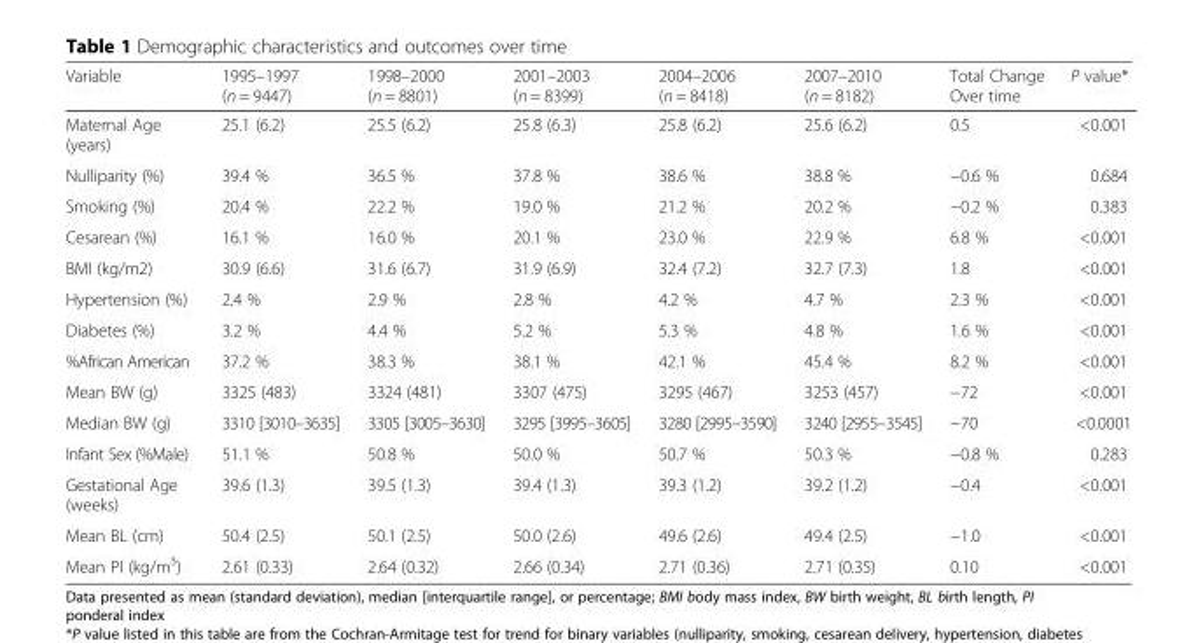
<table><thead><tr><td>Variable</td><td>1995–1997 (n = 9447)</td><td>1998–2000 (n = 8801)</td><td>2001–2003 (n = 8399)</td><td>2004–2006 (n = 8418)</td><td>2007–2010 (n = 8182)</td><td>Total Change Over time</td><td>P value*</td></tr></thead><tbody><tr><td>Maternal Age (years)</td><td>25.1 (6.2)</td><td>25.5 (6.2)</td><td>25.8 (6.3)</td><td>25.8 (6.2)</td><td>25.6 (6.2)</td><td>0.5</td><td>&lt;0.001</td></tr><tr><td>Nulliparity (%)</td><td>39.4 %</td><td>36.5 %</td><td>37.8 %</td><td>38.6 %</td><td>38.8 %</td><td>−0.6 %</td><td>0.684</td></tr><tr><td>Smoking (%)</td><td>20.4 %</td><td>22.2 %</td><td>19.0 %</td><td>21.2 %</td><td>20.2 %</td><td>−0.2 %</td><td>0.383</td></tr><tr><td>Cesarean (%)</td><td>16.1 %</td><td>16.0 %</td><td>20.1 %</td><td>23.0 %</td><td>22.9 %</td><td>6.8 %</td><td>&lt;0.001</td></tr><tr><td>BMI (kg/m2)</td><td>30.9 (6.6)</td><td>31.6 (6.7)</td><td>31.9 (6.9)</td><td>32.4 (7.2)</td><td>32.7 (7.3)</td><td>1.8</td><td>&lt;0.001</td></tr><tr><td>Hypertension (%)</td><td>2.4 %</td><td>2.9 %</td><td>2.8 %</td><td>4.2 %</td><td>4.7 %</td><td>2.3 %</td><td>&lt;0.001</td></tr><tr><td>Diabetes (%)</td><td>3.2 %</td><td>4.4 %</td><td>5.2 %</td><td>5.3 %</td><td>4.8 %</td><td>1.6 %</td><td>&lt;0.001</td></tr><tr><td>%African American</td><td>37.2 %</td><td>38.3 %</td><td>38.1 %</td><td>42.1 %</td><td>45.4 %</td><td>8.2 %</td><td>&lt;0.001</td></tr><tr><td>Mean BW (g)</td><td>3325 (483)</td><td>3324 (481)</td><td>3307 (475)</td><td>3295 (467)</td><td>3253 (457)</td><td>−72</td><td>&lt;0.001</td></tr><tr><td>Median BW (g)</td><td>3310 [3010–3635]</td><td>3305 [3005–3630]</td><td>3295 [3995–3605]</td><td>3280 [2995–3590]</td><td>3240 [2955–3545]</td><td>−70</td><td>&lt;0.0001</td></tr><tr><td>Infant Sex (%Male)</td><td>51.1 %</td><td>50.8 %</td><td>50.0 %</td><td>50.7 %</td><td>50.3 %</td><td>−0.8 %</td><td>0.283</td></tr><tr><td>Gestational Age (weeks)</td><td>39.6 (1.3)</td><td>39.5 (1.3)</td><td>39.4 (1.3)</td><td>39.3 (1.2)</td><td>39.2 (1.2)</td><td>−0.4</td><td>&lt;0.001</td></tr><tr><td>Mean BL (cm)</td><td>50.4 (2.5)</td><td>50.1 (2.5)</td><td>50.0 (2.6)</td><td>49.6 (2.6)</td><td>49.4 (2.5)</td><td>−1.0</td><td>&lt;0.001</td></tr><tr><td>Mean PI (kg/m<sup>3</sup>)</td><td>2.61 (0.33)</td><td>2.64 (0.32)</td><td>2.66 (0.34)</td><td>2.71 (0.36)</td><td>2.71 (0.35)</td><td>0.10</td><td>&lt;0.001</td></tr></tbody></table>